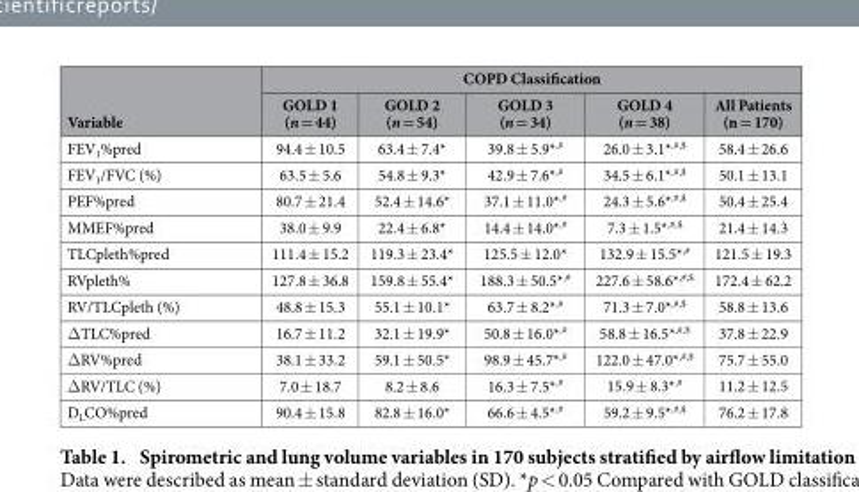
<table><thead><tr><td rowspan="2">Variable</td><td colspan="5">COPD Classification</td></tr><tr><td>GOLD 1 (n = 44)</td><td>GOLD 2 (n = 54)</td><td>GOLD 3 (n = 34)</td><td>GOLD 4 (n = 38)</td><td>All Patients (n = 170)</td></tr></thead><tbody><tr><td>FEV<sub>1</sub>%pred</td><td>94.4 ± 10.5</td><td>63.4 ± 7.4*</td><td>39.8 ± 5.9*<sup>,#</sup></td><td>26.0 ± 3.1*<sup>,#,$</sup></td><td>58.4 ± 26.6</td></tr><tr><td>FEV<sub>1</sub>/FVC (%)</td><td>63.5 ± 5.6</td><td>54.8 ± 9.3*</td><td>42.9 ± 7.6*<sup>,#</sup></td><td>34.5 ± 6.1*<sup>,#,$</sup></td><td>50.1 ± 13.1</td></tr><tr><td>PEF%pred</td><td>80.7 ± 21.4</td><td>52.4 ± 14.6*</td><td>37.1 ± 11.0*<sup>,#</sup></td><td>24.3 ± 5.6*<sup>,#,$</sup></td><td>50.4 ± 25.4</td></tr><tr><td>MMEF%pred</td><td>38.0 ± 9.9</td><td>22.4 ± 6.8*</td><td>14.4 ± 14.0*<sup>,#</sup></td><td>7.3 ± 1.5*<sup>,#,$</sup></td><td>21.4 ± 14.3</td></tr><tr><td>TLCpleth%pred</td><td>111.4 ± 15.2</td><td>119.3 ± 23.4*</td><td>125.5 ± 12.0*</td><td>132.9 ± 15.5*<sup>,#</sup></td><td>121.5 ± 19.3</td></tr><tr><td>RVpleth%</td><td>127.8 ± 36.8</td><td>159.8 ± 55.4*</td><td>188.3 ± 50.5*<sup>,#</sup></td><td>227.6 ± 58.6*<sup>,#,$</sup></td><td>172.4 ± 62.2</td></tr><tr><td>RV/TLCpleth (%)</td><td>48.8 ± 15.3</td><td>55.1 ± 10.1*</td><td>63.7 ± 8.2*<sup>,#</sup></td><td>71.3 ± 7.0*<sup>,#,$</sup></td><td>58.8 ± 13.6</td></tr><tr><td>Δ TLC%pred</td><td>16.7 ± 11.2</td><td>32.1 ± 19.9*</td><td>50.8 ± 16.0*<sup>,#</sup></td><td>58.8 ± 16.5*<sup>,#,$</sup></td><td>37.8 ± 22.9</td></tr><tr><td>Δ RV%pred</td><td>38.1 ± 33.2</td><td>59.1 ± 50.5*</td><td>98.9 ± 45.7*<sup>,#</sup></td><td>122.0 ± 47.0*<sup>,#,$</sup></td><td>75.7 ± 55.0</td></tr><tr><td>Δ RV/TLC (%)</td><td>7.0 ± 18.7</td><td>8.2 ± 8.6</td><td>16.3 ± 7.5*<sup>,#</sup></td><td>15.9 ± 8.3*<sup>,#</sup></td><td>11.2 ± 12.5</td></tr><tr><td>D<sub>L</sub>CO%pred</td><td>90.4 ± 15.8</td><td>82.8 ± 16.0*</td><td>66.6 ± 4.5*<sup>,#</sup></td><td>59.2 ± 9.5*<sup>,#,$</sup></td><td>76.2 ± 17.8</td></tr></tbody></table>